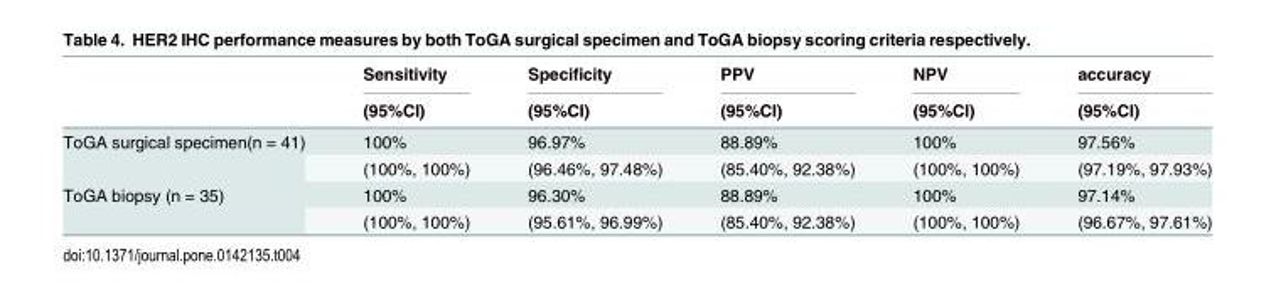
<table><thead><tr><td rowspan="2"></td><td rowspan="2">Sensitivity (95%CI)</td><td rowspan="2">Specificity (95%CI)</td><td rowspan="2">PPV (95%CI)</td><td rowspan="2">NPV (95%CI)</td><td rowspan="2">accuracy (95%CI)</td></tr><tr></tr></thead><tbody><tr><td rowspan="2">ToGA surgical specimen(n = 41)</td><td>100%</td><td>96.97%</td><td>88.89%</td><td>100%</td><td>97.56%</td></tr><tr><td>(100%, 100%)</td><td>(96.46%, 97.48%)</td><td>(85.40%, 92.38%)</td><td>(100%, 100%)</td><td>(97.19%, 97.93%)</td></tr><tr><td rowspan="2">ToGA biopsy (n = 35)</td><td>100%</td><td>96.30%</td><td>88.89%</td><td>100%</td><td>97.14%</td></tr><tr><td>(100%, 100%)</td><td>(95.61%, 96.99%)</td><td>(85.40%, 92.38%)</td><td>(100%, 100%)</td><td>(96.67%, 97.61%)</td></tr></tbody></table>